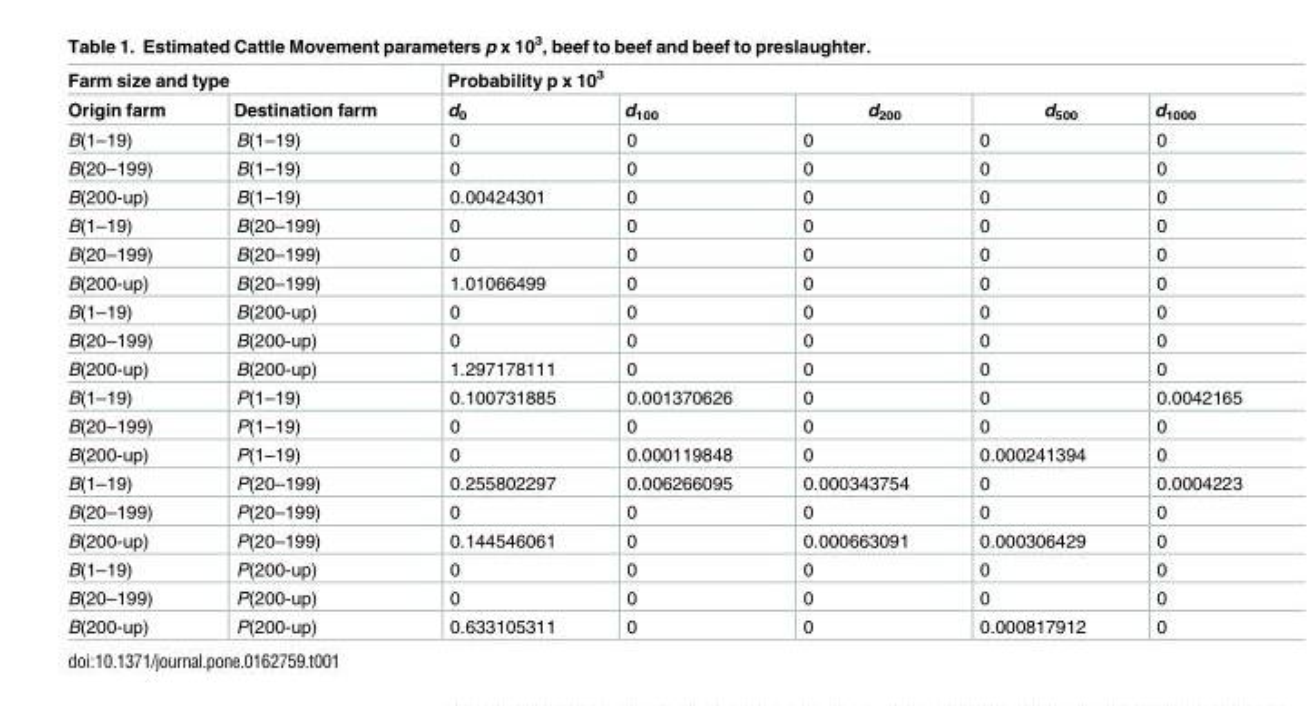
<table><thead><tr><td colspan="2">Farm size and type</td><td colspan="5">Probability p x 10<sup>3</sup></td></tr><tr><td>Origin farm</td><td>Destination farm</td><td>d<sub>0</sub></td><td>d<sub>100</sub></td><td>d<sub>200</sub></td><td>d<sub>500</sub></td><td>d<sub>1000</sub></td></tr></thead><tbody><tr><td>B(1–19)</td><td>B(1–19)</td><td>0</td><td>0</td><td>0</td><td>0</td><td>0</td></tr><tr><td>B(20–199)</td><td>B(1–19)</td><td>0</td><td>0</td><td>0</td><td>0</td><td>0</td></tr><tr><td>B(200-up)</td><td>B(1–19)</td><td>0.00424301</td><td>0</td><td>0</td><td>0</td><td>0</td></tr><tr><td>B(1–19)</td><td>B(20–199)</td><td>0</td><td>0</td><td>0</td><td>0</td><td>0</td></tr><tr><td>B(20–199)</td><td>B(20–199)</td><td>0</td><td>0</td><td>0</td><td>0</td><td>0</td></tr><tr><td>B(200-up)</td><td>B(20–199)</td><td>1.01066499</td><td>0</td><td>0</td><td>0</td><td>0</td></tr><tr><td>B(1–19)</td><td>B(200-up)</td><td>0</td><td>0</td><td>0</td><td>0</td><td>0</td></tr><tr><td>B(20–199)</td><td>B(200-up)</td><td>0</td><td>0</td><td>0</td><td>0</td><td>0</td></tr><tr><td>B(200-up)</td><td>B(200-up)</td><td>1.297178111</td><td>0</td><td>0</td><td>0</td><td>0</td></tr><tr><td>B(1–19)</td><td>P(1–19)</td><td>0.100731885</td><td>0.001370626</td><td>0</td><td>0</td><td>0.0042165</td></tr><tr><td>B(20–199)</td><td>P(1–19)</td><td>0</td><td>0</td><td>0</td><td>0</td><td>0</td></tr><tr><td>B(200-up)</td><td>P(1–19)</td><td>0</td><td>0.000119848</td><td>0</td><td>0.000241394</td><td>0</td></tr><tr><td>B(1–19)</td><td>P(20–199)</td><td>0.255802297</td><td>0.006266095</td><td>0.000343754</td><td>0</td><td>0.0004223</td></tr><tr><td>B(20–199)</td><td>P(20–199)</td><td>0</td><td>0</td><td>0</td><td>0</td><td>0</td></tr><tr><td>B(200-up)</td><td>P(20–199)</td><td>0.144546061</td><td>0</td><td>0.000663091</td><td>0.000306429</td><td>0</td></tr><tr><td>B(1–19)</td><td>P(200-up)</td><td>0</td><td>0</td><td>0</td><td>0</td><td>0</td></tr><tr><td>B(20–199)</td><td>P(200-up)</td><td>0</td><td>0</td><td>0</td><td>0</td><td>0</td></tr><tr><td>B(200-up)</td><td>P(200-up)</td><td>0.633105311</td><td>0</td><td>0</td><td>0.000817912</td><td>0</td></tr></tbody></table>